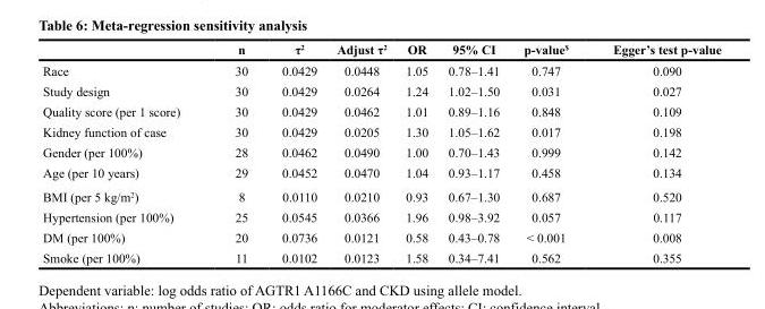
<table><thead><tr><td></td><td>n</td><td>τ<sup>2</sup></td><td>Adjust τ<sup>2</sup></td><td>OR</td><td>95% CI</td><td>p-value<sup>$</sup></td><td>Egger’s test p-value</td></tr></thead><tbody><tr><td>Race</td><td>30</td><td>0.0429</td><td>0.0448</td><td>1.05</td><td>0.78–1.41</td><td>0.747</td><td>0.090</td></tr><tr><td>Study design</td><td>30</td><td>0.0429</td><td>0.0264</td><td>1.24</td><td>1.02–1.50</td><td>0.031</td><td>0.027</td></tr><tr><td>Quality score (per 1 score)</td><td>30</td><td>0.0429</td><td>0.0462</td><td>1.01</td><td>0.89–1.16</td><td>0.848</td><td>0.109</td></tr><tr><td>Kidney function of case</td><td>30</td><td>0.0429</td><td>0.0205</td><td>1.30</td><td>1.05–1.62</td><td>0.017</td><td>0.198</td></tr><tr><td>Gender (per 100%)</td><td>28</td><td>0.0462</td><td>0.0490</td><td>1.00</td><td>0.70–1.43</td><td>0.999</td><td>0.142</td></tr><tr><td>Age (per 10 years)</td><td>29</td><td>0.0452</td><td>0.0470</td><td>1.04</td><td>0.93–1.17</td><td>0.458</td><td>0.134</td></tr><tr><td>BMI (per 5 kg/m<sup>2</sup>)</td><td>8</td><td>0.0110</td><td>0.0210</td><td>0.93</td><td>0.67–1.30</td><td>0.687</td><td>0.520</td></tr><tr><td>Hypertension (per 100%)</td><td>25</td><td>0.0545</td><td>0.0366</td><td>1.96</td><td>0.98–3.92</td><td>0.057</td><td>0.117</td></tr><tr><td>DM (per 100%)</td><td>20</td><td>0.0736</td><td>0.0121</td><td>0.58</td><td>0.43–0.78</td><td>&lt; 0.001</td><td>0.008</td></tr><tr><td>Smoke (per 100%)</td><td>11</td><td>0.0102</td><td>0.0123</td><td>1.58</td><td>0.34–7.41</td><td>0.562</td><td>0.355</td></tr></tbody></table>